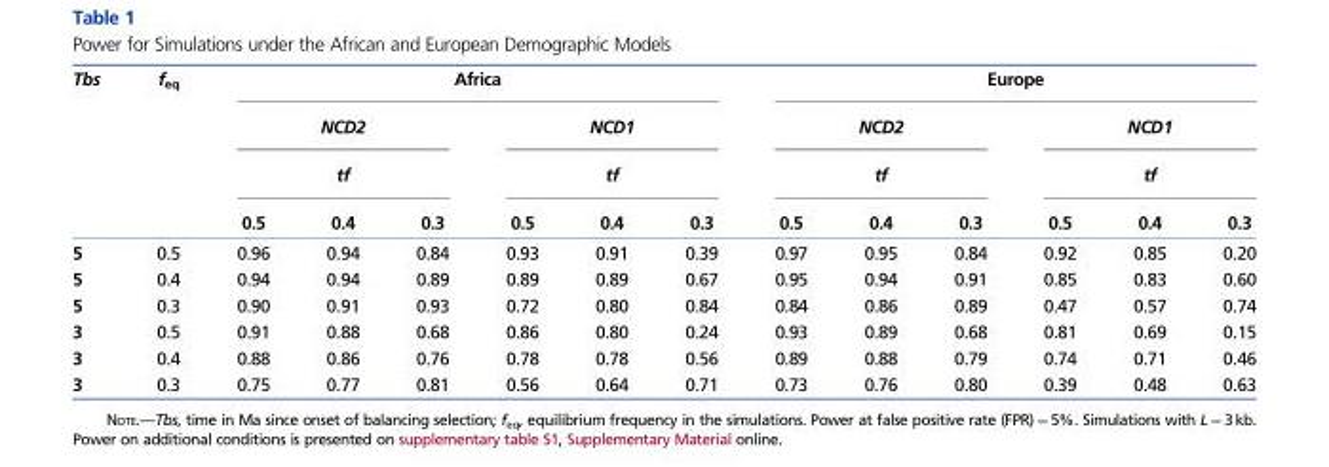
<table><thead><tr><td rowspan="4">Tbs</td><td rowspan="4">f<sub>eq</sub></td><td colspan="6">Africa</td><td colspan="6">Europe</td></tr><tr><td rowspan="2" colspan="3">NCD2 tf</td><td rowspan="2" colspan="3">NCD1 tf</td><td rowspan="2" colspan="3">NCD2 tf</td><td rowspan="2" colspan="3">NCD1 tf</td></tr><tr></tr><tr><td>0.5</td><td>0.4</td><td>0.3</td><td>0.5</td><td>0.4</td><td>0.3</td><td>0.5</td><td>0.4</td><td>0.3</td><td>0.5</td><td>0.4</td><td>0.3</td></tr></thead><tbody><tr><td>5</td><td>0.5</td><td>0.96</td><td>0.94</td><td>0.84</td><td>0.93</td><td>0.91</td><td>0.39</td><td>0.97</td><td>0.95</td><td>0.84</td><td>0.92</td><td>0.85</td><td>0.20</td></tr><tr><td>5</td><td>0.4</td><td>0.94</td><td>0.94</td><td>0.89</td><td>0.89</td><td>0.89</td><td>0.67</td><td>0.95</td><td>0.94</td><td>0.91</td><td>0.85</td><td>0.83</td><td>0.60</td></tr><tr><td>5</td><td>0.3</td><td>0.90</td><td>0.91</td><td>0.93</td><td>0.72</td><td>0.80</td><td>0.84</td><td>0.84</td><td>0.86</td><td>0.89</td><td>0.47</td><td>0.57</td><td>0.74</td></tr><tr><td>3</td><td>0.5</td><td>0.91</td><td>0.88</td><td>0.68</td><td>0.86</td><td>0.80</td><td>0.24</td><td>0.93</td><td>0.89</td><td>0.68</td><td>0.81</td><td>0.69</td><td>0.15</td></tr><tr><td>3</td><td>0.4</td><td>0.88</td><td>0.86</td><td>0.76</td><td>0.78</td><td>0.78</td><td>0.56</td><td>0.89</td><td>0.88</td><td>0.79</td><td>0.74</td><td>0.71</td><td>0.46</td></tr><tr><td>3</td><td>0.3</td><td>0.75</td><td>0.77</td><td>0.81</td><td>0.56</td><td>0.64</td><td>0.71</td><td>0.73</td><td>0.76</td><td>0.80</td><td>0.39</td><td>0.48</td><td>0.63</td></tr></tbody></table>